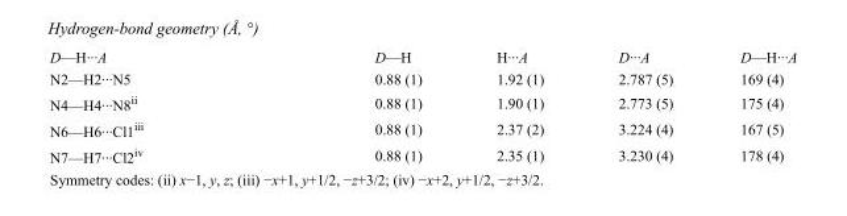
<table><tbody><tr><td>D—H···A</td><td>D—H</td><td>H···A</td><td>D···A</td><td>D—H···A</td></tr><tr><td>N2—H2···N5</td><td>0.88 (1)</td><td>1.92 (1)</td><td>2.787 (5)</td><td>169 (4)</td></tr><tr><td>N4—H4···N8<sup>ii</sup></td><td>0.88 (1)</td><td>1.90 (1)</td><td>2.773 (5)</td><td>175 (4)</td></tr><tr><td>N6—H6···Cl1<sup>iii</sup></td><td>0.88 (1)</td><td>2.37 (2)</td><td>3.224 (4)</td><td>167 (5)</td></tr><tr><td>N7—H7···Cl2<sup>iv</sup></td><td>0.88 (1)</td><td>2.35 (1)</td><td>3.230 (4)</td><td>178 (4)</td></tr></tbody></table>